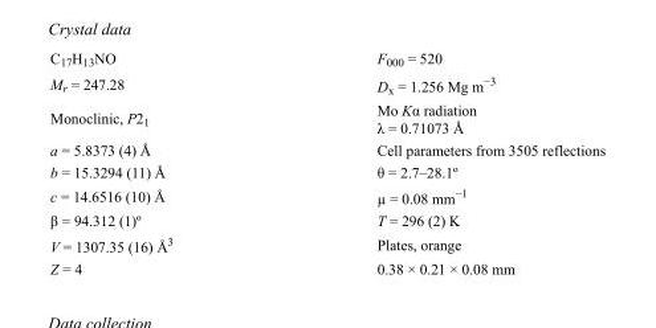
<table><tbody><tr><td>C<sub>17</sub>H<sub>13</sub>NO</td><td>F000 = 520</td></tr><tr><td>M<sub>r</sub> = 247.28</td><td>D<sub>x</sub> = 1.256 Mg m<sup>−3</sup></td></tr><tr><td>Monoclinic, P2<sub>1</sub></td><td>Mo Kα radiation λ = 0.71073 Å</td></tr><tr><td>a = 5.8373 (4) Å</td><td>Cell parameters from 3505 reflections</td></tr><tr><td>b = 15.3294 (11) Å</td><td>θ = 2.7–28.1º</td></tr><tr><td>c = 14.6516 (10) Å</td><td>µ = 0.08 mm<sup>−1</sup></td></tr><tr><td>β = 94.312 (1)º</td><td>T = 296 (2) K</td></tr><tr><td>V = 1307.35 (16) Å<sup>3</sup></td><td>Plates, orange</td></tr><tr><td>Z = 4</td><td>0.38 × 0.21 × 0.08 mm</td></tr></tbody></table>